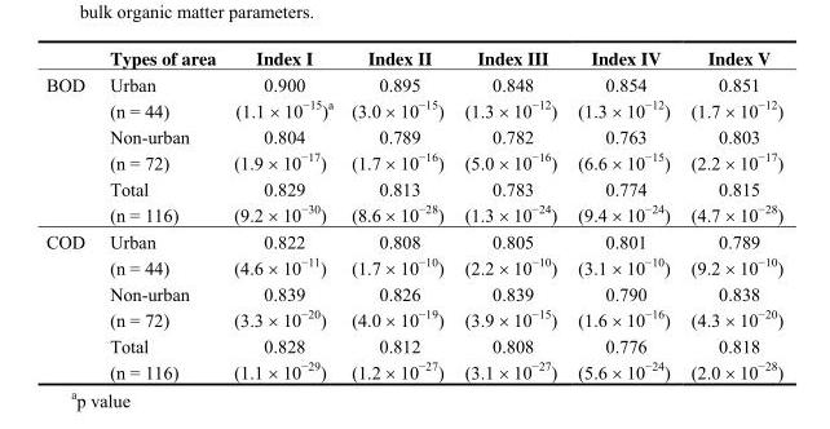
<table><thead><tr><td></td><td>Types of area</td><td>Index I</td><td>Index II</td><td>Index III</td><td>Index IV</td><td>Index V</td></tr></thead><tbody><tr><td rowspan="3">BOD</td><td>Urban (n = 44)</td><td>0.900 (1.1 × 10<sup>−15</sup>)<sup>a</sup></td><td>0.895 (3.0 × 10<sup>−15</sup>)</td><td>0.848 (1.3 × 10<sup>−12</sup>)</td><td>0.854 (1.3 × 10<sup>−12</sup>)</td><td>0.851 (1.7 × 10<sup>−12</sup>)</td></tr><tr><td>Non-urban (n = 72)</td><td>0.804 (1.9 × 10<sup>−17</sup>)</td><td>0.789 (1.7 × 10<sup>−16</sup>)</td><td>0.782 (5.0 × 10<sup>−16</sup>)</td><td>0.763 (6.6 × 10<sup>−15</sup>)</td><td>0.803 (2.2 × 10<sup>−17</sup>)</td></tr><tr><td>Total (n = 116)</td><td>0.829 (9.2 × 10<sup>−30</sup>)</td><td>0.813 (8.6 × 10<sup>−28</sup>)</td><td>0.783 (1.3 × 10<sup>−24</sup>)</td><td>0.774 (9.4 × 10<sup>−24</sup>)</td><td>0.815 (4.7 × 10<sup>−28</sup>)</td></tr><tr><td rowspan="3">COD</td><td>Urban (n = 44)</td><td>0.822 (4.6 × 10<sup>−11</sup>)</td><td>0.808 (1.7 × 10<sup>−10</sup>)</td><td>0.805 (2.2 × 10<sup>−10</sup>)</td><td>0.801 (3.1 × 10<sup>−10</sup>)</td><td>0.789 (9.2 × 10<sup>−10</sup>)</td></tr><tr><td>Non-urban (n = 72)</td><td>0.839 (3.3 × 10<sup>−20</sup>)</td><td>0.826 (4.0 × 10<sup>−19</sup>)</td><td>0.839 (3.9 × 10<sup>−15</sup>)</td><td>0.790 (1.6 × 10<sup>−16</sup>)</td><td>0.838 (4.3 × 10<sup>−20</sup>)</td></tr><tr><td>Total (n = 116)</td><td>0.828 (1.1 × 10<sup>−29</sup>)</td><td>0.812 (1.2 × 10<sup>−27</sup>)</td><td>0.808 (3.1 × 10<sup>−27</sup>)</td><td>0.776 (5.6 × 10<sup>−24</sup>)</td><td>0.818 (2.0 × 10<sup>−28</sup>)</td></tr></tbody></table>